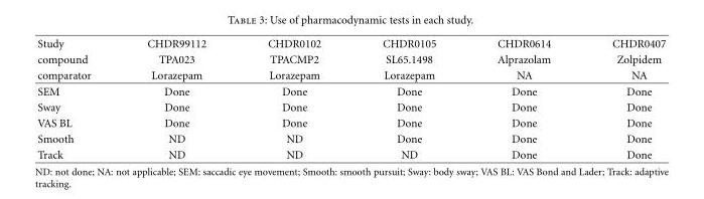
<table><thead><tr><td rowspan="3">Study compound comparator</td><td rowspan="3">CHDR99112 TPA023 Lorazepam</td><td rowspan="3">CHDR0102 TPACMP2 Lorazepam</td><td rowspan="3">CHDR0105 SL65.1498 Lorazepam</td><td rowspan="3">CHDR0614 Alprazolam NA</td><td rowspan="3">CHDR0407 Zolpidem NA</td></tr><tr></tr><tr></tr></thead><tbody><tr><td>SEM</td><td>Done</td><td>Done</td><td>Done</td><td>Done</td><td>Done</td></tr><tr><td>Sway</td><td>Done</td><td>Done</td><td>Done</td><td>Done</td><td>Done</td></tr><tr><td>VAS BL</td><td>Done</td><td>Done</td><td>Done</td><td>Done</td><td>Done</td></tr><tr><td>Smooth</td><td>ND</td><td>ND</td><td>Done</td><td>Done</td><td>Done</td></tr><tr><td>Track</td><td>ND</td><td>ND</td><td>ND</td><td>Done</td><td>Done</td></tr></tbody></table>